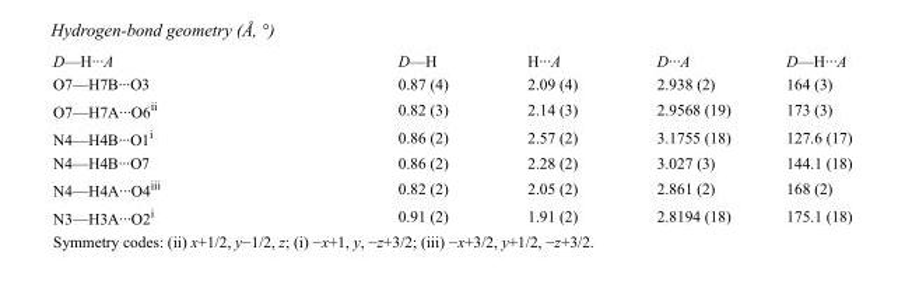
<table><tbody><tr><td>D—H···A</td><td>D—H</td><td>H···A</td><td>D···A</td><td>D—H···A</td></tr><tr><td>O7—H7B···O3</td><td>0.87 (4)</td><td>2.09 (4)</td><td>2.938 (2)</td><td>164 (3)</td></tr><tr><td>O7—H7A···O6<sup>ii</sup></td><td>0.82 (3)</td><td>2.14 (3)</td><td>2.9568 (19)</td><td>173 (3)</td></tr><tr><td>N4—H4B···O1<sup>i</sup></td><td>0.86 (2)</td><td>2.57 (2)</td><td>3.1755 (18)</td><td>127.6 (17)</td></tr><tr><td>N4—H4B···O7</td><td>0.86 (2)</td><td>2.28 (2)</td><td>3.027 (3)</td><td>144.1 (18)</td></tr><tr><td>N4—H4A···O4<sup>iii</sup></td><td>0.82 (2)</td><td>2.05 (2)</td><td>2.861 (2)</td><td>168 (2)</td></tr><tr><td>N3—H3A···O2<sup>i</sup></td><td>0.91 (2)</td><td>1.91 (2)</td><td>2.8194 (18)</td><td>175.1 (18)</td></tr></tbody></table>